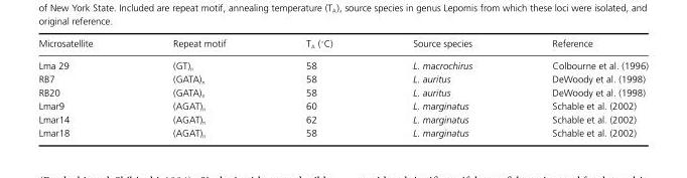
<table><thead><tr><td>Microsatellite</td><td>Repeat motif</td><td>TA (◦C)</td><td>Source species</td><td>Reference</td></tr></thead><tbody><tr><td>Lma 29</td><td>(GT)<sub>n</sub></td><td>58</td><td>L. macrochirus</td><td>Colbourne et al. (1996)</td></tr><tr><td>RB7</td><td>(GATA)<sub>n</sub></td><td>58</td><td>L. auritus</td><td>DeWoody et al. (1998)</td></tr><tr><td>RB20</td><td>(GATA)<sub>n</sub></td><td>58</td><td>L. auritus</td><td>DeWoody et al. (1998)</td></tr><tr><td>Lmar9</td><td>(AGAT)<sub>n</sub></td><td>60</td><td>L. marginatus</td><td>Schable et al. (2002)</td></tr><tr><td>Lmar14</td><td>(AGAT)<sub>n</sub></td><td>62</td><td>L. marginatus</td><td>Schable et al. (2002)</td></tr><tr><td>Lmar18</td><td>(AGAT)<sub>n</sub></td><td>58</td><td>L. marginatus</td><td>Schable et al. (2002)</td></tr></tbody></table>